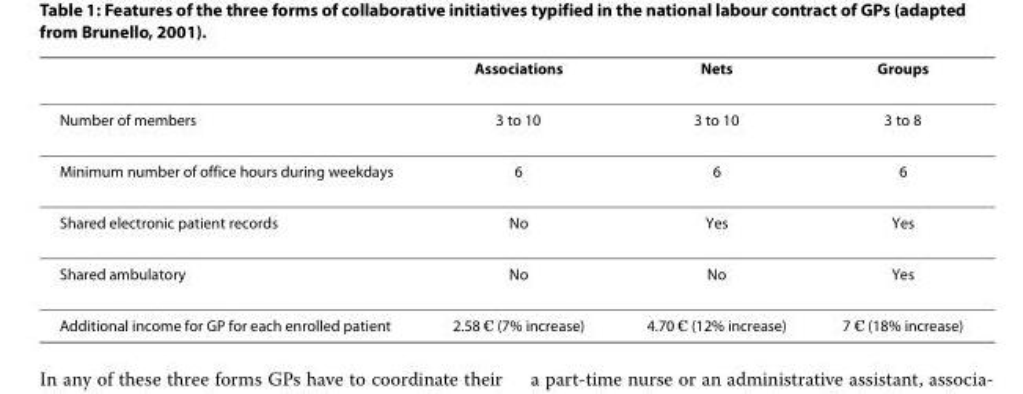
<table><thead><tr><td></td><td>Associations</td><td>Nets</td><td>Groups</td></tr></thead><tbody><tr><td>Number of members</td><td>3 to 10</td><td>3 to 10</td><td>3 to 8</td></tr><tr><td>Minimum number of office hours during weekdays</td><td>6</td><td>6</td><td>6</td></tr><tr><td>Shared electronic patient records</td><td>No</td><td>Yes</td><td>Yes</td></tr><tr><td>Shared ambulatory</td><td>No</td><td>No</td><td>Yes</td></tr><tr><td>Additional income for GP for each enrolled patient</td><td>2.58 € (7% increase)</td><td>4.70 € (12% increase)</td><td>7 € (18% increase)</td></tr></tbody></table>